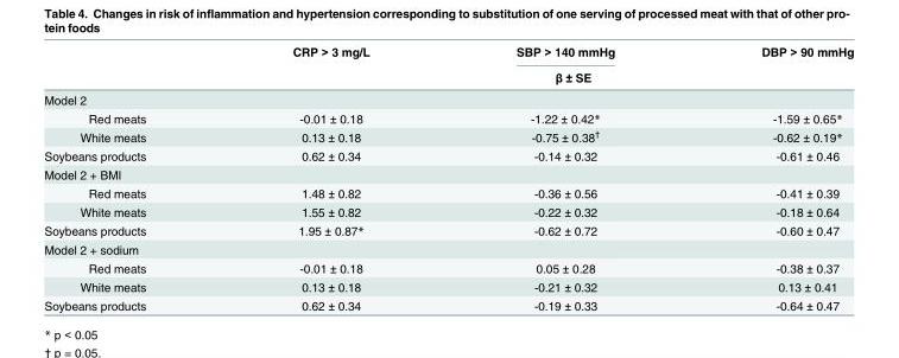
<table><thead><tr><td></td><td>CRP &gt; 3 mg/L</td><td>SBP &gt; 140 mmHg</td><td>DBP &gt; 90 mmHg</td></tr></thead><tbody><tr><td></td><td colspan="3">β ± SE</td></tr><tr><td colspan="4">Model 2</td></tr><tr><td>Red meats</td><td>-0.01 ± 0.18</td><td>-1.22 ± 0.42*</td><td>-1.59 ± 0.65*</td></tr><tr><td>White meats</td><td>0.13 ± 0.18</td><td>-0.75 ± 0.38<sup>†</sup></td><td>-0.62 ± 0.19*</td></tr><tr><td>Soybeans products</td><td>0.62 ± 0.34</td><td>-0.14 ± 0.32</td><td>-0.61 ± 0.46</td></tr><tr><td colspan="4">Model 2 + BMI</td></tr><tr><td>Red meats</td><td>1.48 ± 0.82</td><td>-0.36 ± 0.56</td><td>-0.41 ± 0.39</td></tr><tr><td>White meats</td><td>1.55 ± 0.82</td><td>-0.22 ± 0.32</td><td>-0.18 ± 0.64</td></tr><tr><td>Soybeans products</td><td>1.95 ± 0.87*</td><td>-0.62 ± 0.72</td><td>-0.60 ± 0.47</td></tr><tr><td colspan="4">Model 2 + sodium</td></tr><tr><td>Red meats</td><td>-0.01 ± 0.18</td><td>0.05 ± 0.28</td><td>-0.38 ± 0.37</td></tr><tr><td>White meats</td><td>0.13 ± 0.18</td><td>-0.21 ± 0.32</td><td>0.13 ± 0.41</td></tr><tr><td>Soybeans products</td><td>0.62 ± 0.34</td><td>-0.19 ± 0.33</td><td>-0.64 ± 0.47</td></tr></tbody></table>